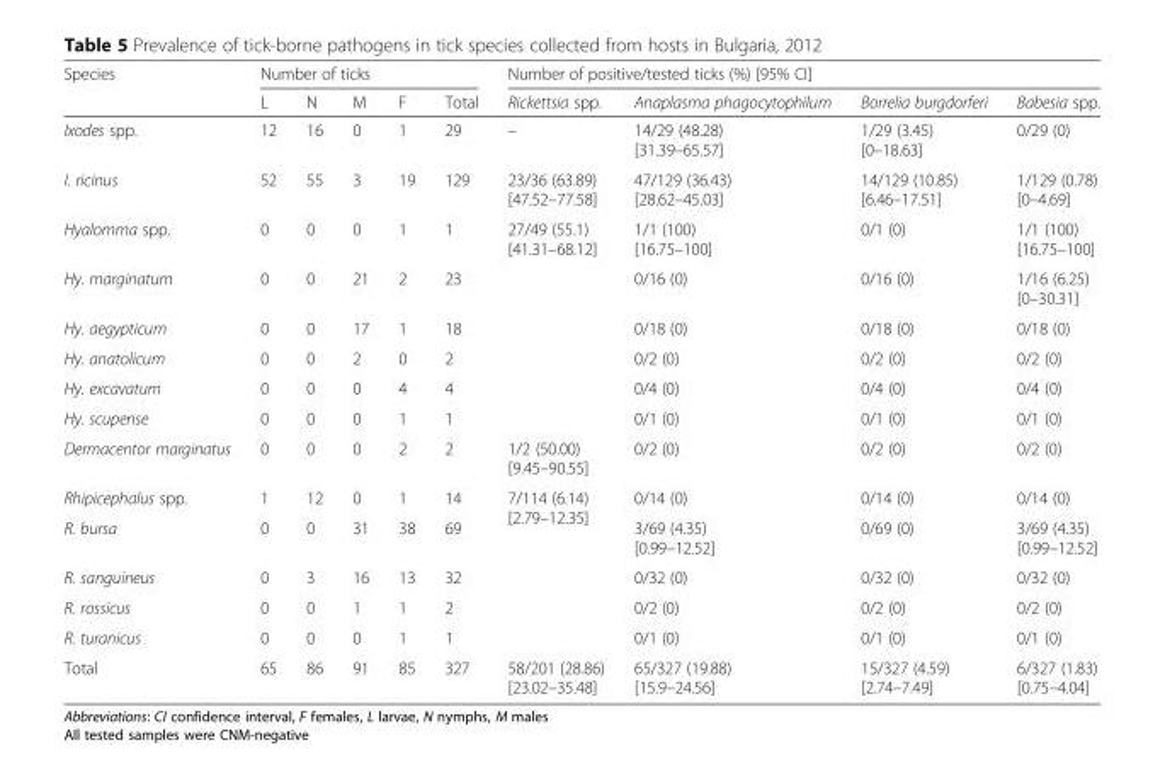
<table><thead><tr><td rowspan="2">Species</td><td colspan="5">Number of ticks</td><td colspan="4">Number of positive/tested ticks (%) [95% CI]</td></tr><tr><td>L</td><td>N</td><td>M</td><td>F</td><td>Total</td><td>Rickettsia spp.</td><td>Anaplasma phagocytophilum</td><td>Borrelia burgdorferi</td><td>Babesia spp.</td></tr></thead><tbody><tr><td>Ixodes spp.</td><td>12</td><td>16</td><td>0</td><td>1</td><td>29</td><td>–</td><td>14/29 (48.28) [31.39–65.57]</td><td>1/29 (3.45) [0–18.63]</td><td>0/29 (0)</td></tr><tr><td>I. ricinus</td><td>52</td><td>55</td><td>3</td><td>19</td><td>129</td><td>23/36 (63.89) [47.52–77.58]</td><td>47/129 (36.43) [28.62–45.03]</td><td>14/129 (10.85) [6.46–17.51]</td><td>1/129 (0.78) [0–4.69]</td></tr><tr><td>Hyalomma spp.</td><td>0</td><td>0</td><td>0</td><td>1</td><td>1</td><td rowspan="6">27/49 (55.1) [41.31–68.12]</td><td>1/1 (100) [16.75–100]</td><td>0/1 (0)</td><td>1/1 (100) [16.75–100]</td></tr><tr><td>Hy. marginatum</td><td>0</td><td>0</td><td>21</td><td>2</td><td>23</td><td>0/16 (0)</td><td>0/16 (0)</td><td>1/16 (6.25) [0–30.31]</td></tr><tr><td>Hy. aegypticum</td><td>0</td><td>0</td><td>17</td><td>1</td><td>18</td><td>0/18 (0)</td><td>0/18 (0)</td><td>0/18 (0)</td></tr><tr><td>Hy. anatolicum</td><td>0</td><td>0</td><td>2</td><td>0</td><td>2</td><td>0/2 (0)</td><td>0/2 (0)</td><td>0/2 (0)</td></tr><tr><td>Hy. excavatum</td><td>0</td><td>0</td><td>0</td><td>4</td><td>4</td><td>0/4 (0)</td><td>0/4 (0)</td><td>0/4 (0)</td></tr><tr><td>Hy. scupense</td><td>0</td><td>0</td><td>0</td><td>1</td><td>1</td><td>0/1 (0)</td><td>0/1 (0)</td><td>0/1 (0)</td></tr><tr><td>Dermacentor marginatus</td><td>0</td><td>0</td><td>0</td><td>2</td><td>2</td><td>1/2 (50.00) [9.45–90.55]</td><td>0/2 (0)</td><td>0/2 (0)</td><td>0/2 (0)</td></tr><tr><td>Rhipicephalus spp.</td><td>1</td><td>12</td><td>0</td><td>1</td><td>14</td><td rowspan="5">7/114 (6.14) [2.79–12.35]</td><td>0/14 (0)</td><td>0/14 (0)</td><td>0/14 (0)</td></tr><tr><td>R. bursa</td><td>0</td><td>0</td><td>31</td><td>38</td><td>69</td><td>3/69 (4.35) [0.99–12.52]</td><td>0/69 (0)</td><td>3/69 (4.35) [0.99–12.52]</td></tr><tr><td>R. sanguineus</td><td>0</td><td>3</td><td>16</td><td>13</td><td>32</td><td>0/32 (0)</td><td>0/32 (0)</td><td>0/32 (0)</td></tr><tr><td>R. rossicus</td><td>0</td><td>0</td><td>1</td><td>1</td><td>2</td><td>0/2 (0)</td><td>0/2 (0)</td><td>0/2 (0)</td></tr><tr><td>R. turanicus</td><td>0</td><td>0</td><td>0</td><td>1</td><td>1</td><td>0/1 (0)</td><td>0/1 (0)</td><td>0/1 (0)</td></tr><tr><td>Total</td><td>65</td><td>86</td><td>91</td><td>85</td><td>327</td><td>58/201 (28.86) [23.02–35.48]</td><td>65/327 (19.88) [15.9–24.56]</td><td>15/327 (4.59) [2.74–7.49]</td><td>6/327 (1.83) [0.75–4.04]</td></tr></tbody></table>